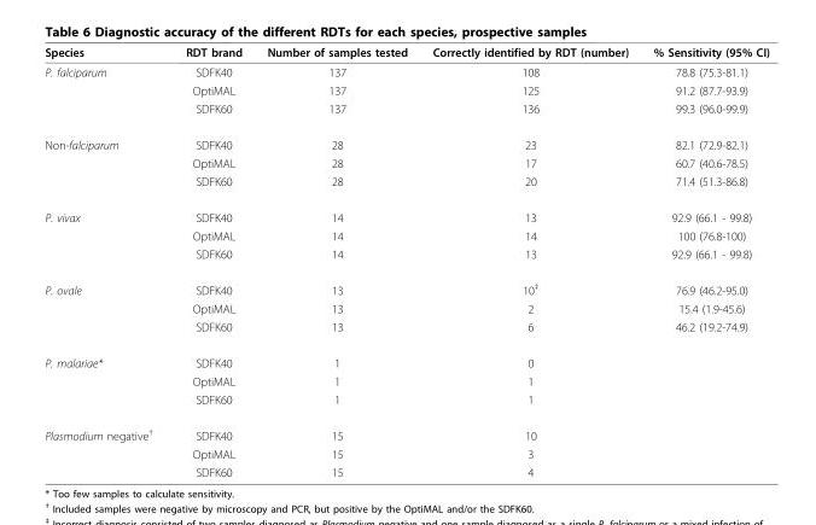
<table><tbody><tr><td>Species</td><td>RDT brand</td><td>Number of samples tested</td><td>Correctly identified by RDT (number)</td><td>% Sensitivity (95% CI)</td></tr><tr><td rowspan="3">P. falciparum</td><td>SDFK40</td><td>137</td><td>108</td><td>78.8 (75.3-81.1)</td></tr><tr><td>OptiMAL</td><td>137</td><td>125</td><td>91.2 (87.7-93.9)</td></tr><tr><td>SDFK60</td><td>137</td><td>136</td><td>99.3 (96.0-99.9)</td></tr><tr><td rowspan="3">Non-falciparum</td><td>SDFK40</td><td>28</td><td>23</td><td>82.1 (72.9-82.1)</td></tr><tr><td>OptiMAL</td><td>28</td><td>17</td><td>60.7 (40.6-78.5)</td></tr><tr><td>SDFK60</td><td>28</td><td>20</td><td>71.4 (51.3-86.8)</td></tr><tr><td rowspan="3">P. vivax</td><td>SDFK40</td><td>14</td><td>13</td><td>92.9 (66.1 - 99.8)</td></tr><tr><td>OptiMAL</td><td>14</td><td>14</td><td>100 (76.8-100)</td></tr><tr><td>SDFK60</td><td>14</td><td>13</td><td>92.9 (66.1 - 99.8)</td></tr><tr><td rowspan="3">P. ovale</td><td>SDFK40</td><td>13</td><td>10<sup>‡</sup></td><td>76.9 (46.2-95.0)</td></tr><tr><td>OptiMAL</td><td>13</td><td>2</td><td>15.4 (1.9-45.6)</td></tr><tr><td>SDFK60</td><td>13</td><td>6</td><td>46.2 (19.2-74.9)</td></tr><tr><td rowspan="3">P. malariae*</td><td>SDFK40</td><td>1</td><td>0</td><td></td></tr><tr><td>OptiMAL</td><td>1</td><td>1</td><td></td></tr><tr><td>SDFK60</td><td>1</td><td>1</td><td></td></tr><tr><td rowspan="3">Plasmodium negative<sup>†</sup></td><td>SDFK40</td><td>15</td><td>10</td><td></td></tr><tr><td>OptiMAL</td><td>15</td><td>3</td><td></td></tr><tr><td>SDFK60</td><td>15</td><td>4</td><td></td></tr></tbody></table>